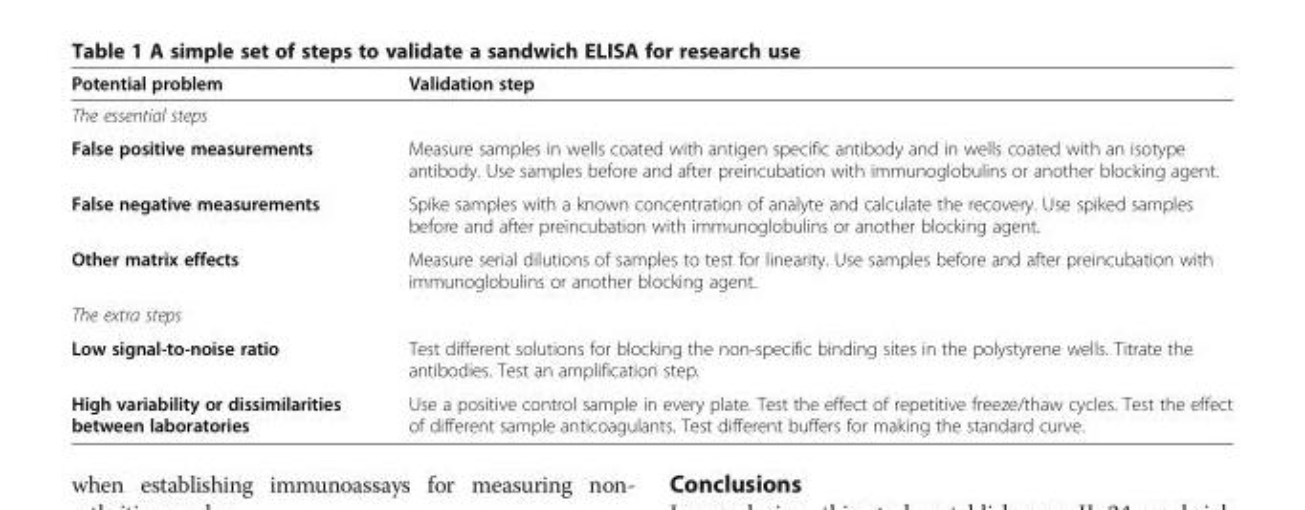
<table><thead><tr><td>Potential problem</td><td>Validation step</td></tr></thead><tbody><tr><td colspan="2">The essential steps</td></tr><tr><td>False positive measurements</td><td>Measure samples in wells coated with antigen specific antibody and in wells coated with an isotype antibody. Use samples before and after preincubation with immunoglobulins or another blocking agent.</td></tr><tr><td>False negative measurements</td><td>Spike samples with a known concentration of analyte and calculate the recovery. Use spiked samples before and after preincubation with immunoglobulins or another blocking agent.</td></tr><tr><td>Other matrix effects</td><td>Measure serial dilutions of samples to test for linearity. Use samples before and after preincubation with immunoglobulins or another blocking agent.</td></tr><tr><td colspan="2">The extra steps</td></tr><tr><td>Low signal-to-noise ratio</td><td>Test different solutions for blocking the non-specific binding sites in the polystyrene wells. Titrate the antibodies. Test an amplification step.</td></tr><tr><td>High variability or dissimilarities between laboratories</td><td>Use a positive control sample in every plate. Test the effect of repetitive freeze/thaw cycles. Test the effect of different sample anticoagulants. Test different buffers for making the standard curve.</td></tr></tbody></table>